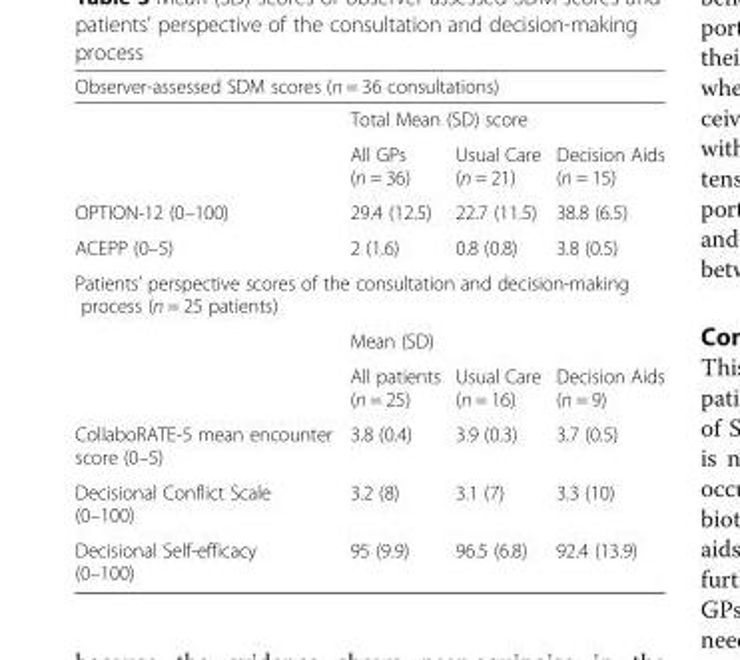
<table><thead><tr><td colspan="4">Observer-assessed SDM scores (n = 36 consultations)</td></tr><tr><td rowspan="2"></td><td colspan="3">Total Mean (SD) score</td></tr><tr><td>All GPs (n = 36)</td><td>Usual Care (n = 21)</td><td>Decision Aids (n = 15)</td></tr></thead><tbody><tr><td>OPTION-12 (0–100)</td><td>29.4 (12.5)</td><td>22.7 (11.5)</td><td>38.8 (6.5)</td></tr><tr><td>ACEPP (0–5)</td><td>2 (1.6)</td><td>0.8 (0.8)</td><td>3.8 (0.5)</td></tr><tr><td colspan="4">Patients’ perspective scores of the consultation and decision-making process (n = 25 patients)</td></tr><tr><td rowspan="2"></td><td colspan="3">Mean (SD)</td></tr><tr><td>All patients (n = 25)</td><td>Usual Care (n = 16)</td><td>Decision Aids (n = 9)</td></tr><tr><td>CollaboRATE-5 mean encounter score (0–5)</td><td>3.8 (0.4)</td><td>3.9 (0.3)</td><td>3.7 (0.5)</td></tr><tr><td>Decisional Conflict Scale (0–100)</td><td>3.2 (8)</td><td>3.1 (7)</td><td>3.3 (10)</td></tr><tr><td>Decisional Self-efficacy (0–100)</td><td>95 (9.9)</td><td>96.5 (6.8)</td><td>92.4 (13.9)</td></tr></tbody></table>